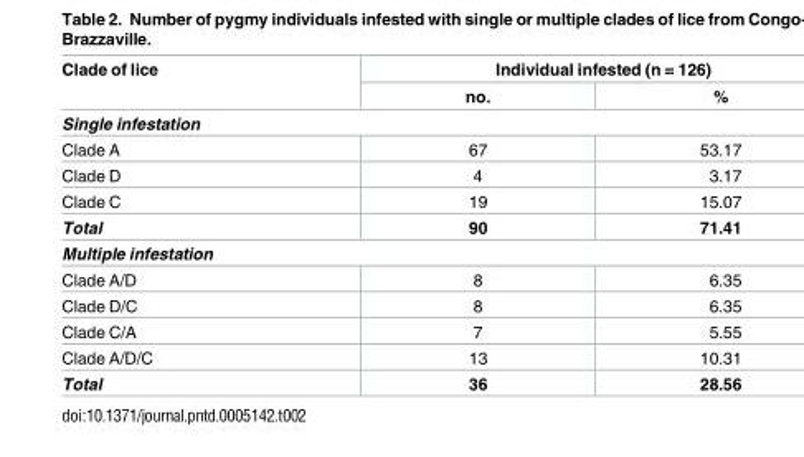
<table><thead><tr><td rowspan="2">Clade of lice</td><td colspan="2">Individual infested (n = 126)</td></tr><tr><td>no.</td><td>%</td></tr></thead><tbody><tr><td colspan="3">Single infestation</td></tr><tr><td>Clade A</td><td>67</td><td>53.17</td></tr><tr><td>Clade D</td><td>4</td><td>3.17</td></tr><tr><td>Clade C</td><td>19</td><td>15.07</td></tr><tr><td>Total</td><td>90</td><td>71.41</td></tr><tr><td colspan="3">Multiple infestation</td></tr><tr><td>Clade A/D</td><td>8</td><td>6.35</td></tr><tr><td>Clade D/C</td><td>8</td><td>6.35</td></tr><tr><td>Clade C/A</td><td>7</td><td>5.55</td></tr><tr><td>Clade A/D/C</td><td>13</td><td>10.31</td></tr><tr><td>Total</td><td>36</td><td>28.56</td></tr></tbody></table>